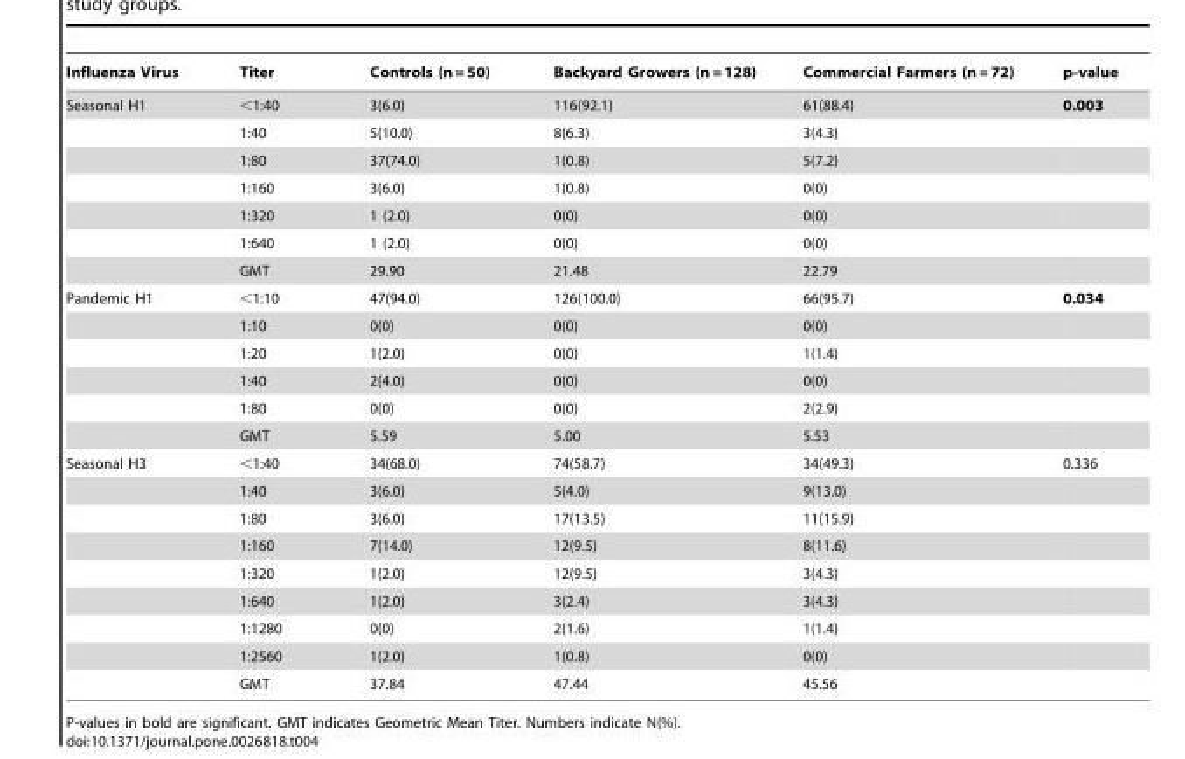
<table><thead><tr><td>Influenza Virus</td><td>Titer</td><td>Controls (n = 50)</td><td>Backyard Growers (n = 128)</td><td>Commercial Farmers (n = 72)</td><td>p-value</td></tr></thead><tbody><tr><td rowspan="7">Seasonal H1</td><td>&lt;1:40</td><td>3(6.0)</td><td>116(92.1)</td><td>61(88.4)</td><td>0.003</td></tr><tr><td>1:40</td><td>5(10.0)</td><td>8(6.3)</td><td>3(4.3)</td><td></td></tr><tr><td>1:80</td><td>37(74.0)</td><td>1(0.8)</td><td>5(7.2)</td><td></td></tr><tr><td>1:160</td><td>3(6.0)</td><td>1(0.8)</td><td>0(0)</td><td></td></tr><tr><td>1:320</td><td>1 (2.0)</td><td>0(0)</td><td>0(0)</td><td></td></tr><tr><td>1:640</td><td>1 (2.0)</td><td>0(0)</td><td>0(0)</td><td></td></tr><tr><td>GMT</td><td>29.90</td><td>21.48</td><td>22.79</td><td></td></tr><tr><td rowspan="6">Pandemic H1</td><td>&lt;1:10</td><td>47(94.0)</td><td>126(100.0)</td><td>66(95.7)</td><td>0.034</td></tr><tr><td>1:10</td><td>0(0)</td><td>0(0)</td><td>0(0)</td><td></td></tr><tr><td>1:20</td><td>1(2.0)</td><td>0(0)</td><td>1(1.4)</td><td></td></tr><tr><td>1:40</td><td>2(4.0)</td><td>0(0)</td><td>0(0)</td><td></td></tr><tr><td>1:80</td><td>0(0)</td><td>0(0)</td><td>2(2.9)</td><td></td></tr><tr><td>GMT</td><td>5.59</td><td>5.00</td><td>5.53</td><td></td></tr><tr><td rowspan="9">Seasonal H3</td><td>&lt;1:40</td><td>34(68.0)</td><td>74(58.7)</td><td>34(49.3)</td><td>0.336</td></tr><tr><td>1:40</td><td>3(6.0)</td><td>5(4.0)</td><td>9(13.0)</td><td></td></tr><tr><td>1:80</td><td>3(6.0)</td><td>17(13.5)</td><td>11(15.9)</td><td></td></tr><tr><td>1:160</td><td>7(14.0)</td><td>12(9.5)</td><td>8(11.6)</td><td></td></tr><tr><td>1:320</td><td>1(2.0)</td><td>12(9.5)</td><td>3(4.3)</td><td></td></tr><tr><td>1:640</td><td>1(2.0)</td><td>3(2.4)</td><td>3(4.3)</td><td></td></tr><tr><td>1:1280</td><td>0(0)</td><td>2(1.6)</td><td>1(1.4)</td><td></td></tr><tr><td>1:2560</td><td>1(2.0)</td><td>1(0.8)</td><td>0(0)</td><td></td></tr><tr><td>GMT</td><td>37.84</td><td>47.44</td><td>45.56</td><td></td></tr></tbody></table>